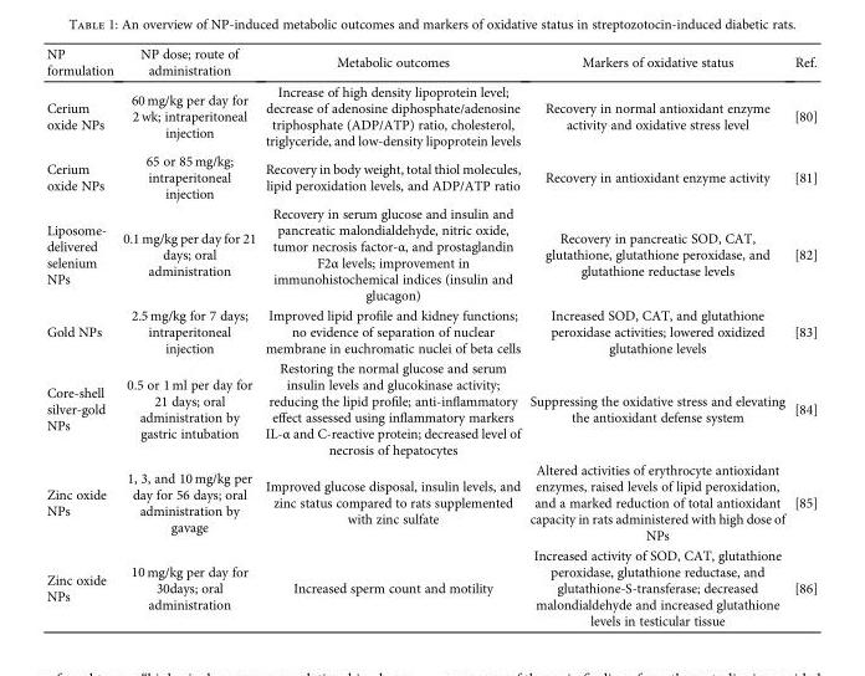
<table><thead><tr><td>NP formulation</td><td>NP dose; route of administration</td><td>Metabolic outcomes</td><td>Markers of oxidative status</td><td>Ref.</td></tr></thead><tbody><tr><td>Cerium oxide NPs</td><td>60 mg/kg per day for 2 wk; intraperitoneal injection</td><td>Increase of high density lipoprotein level; decrease of adenosine diphosphate/adenosine triphosphate (ADP/ATP) ratio, cholesterol, triglyceride, and low-density lipoprotein levels</td><td>Recovery in normal antioxidant enzyme activity and oxidative stress level</td><td>[80]</td></tr><tr><td>Cerium oxide NPs</td><td>65 or 85 mg/kg; intraperitoneal injection</td><td>Recovery in body weight, total thiol molecules, lipid peroxidation levels, and ADP/ATP ratio</td><td>Recovery in antioxidant enzyme activity</td><td>[81]</td></tr><tr><td>Liposome- delivered selenium NPs</td><td>0.1 mg/kg per day for 21 days; oral administration</td><td>Recovery in serum glucose and insulin and pancreatic malondialdehyde, nitric oxide, tumor necrosis factor-α, and prostaglandin F2α levels; improvement in immunohistochemical indices (insulin and glucagon)</td><td>Recovery in pancreatic SOD, CAT, glutathione, glutathione peroxidase, and glutathione reductase levels</td><td>[82]</td></tr><tr><td>Gold NPs</td><td>2.5 mg/kg for 7 days; intraperitoneal injection</td><td>Improved lipid profile and kidney functions; no evidence of separation of nuclear membrane in euchromatic nuclei of beta cells</td><td>Increased SOD, CAT, and glutathione peroxidase activities; lowered oxidized glutathione levels</td><td>[83]</td></tr><tr><td>Core-shell silver-gold NPs</td><td>0.5 or 1 ml per day for 21 days; oral administration by gastric intubation</td><td>Restoring the normal glucose and serum insulin levels and glucokinase activity; reducing the lipid profile; anti-inflammatory effect assessed using inflammatory markers IL-α and C-reactive protein; decreased level of necrosis of hepatocytes</td><td>Suppressing the oxidative stress and elevating the antioxidant defense system</td><td>[84]</td></tr><tr><td>Zinc oxide NPs</td><td>1, 3, and 10 mg/kg per day for 56 days; oral administration by gavage</td><td>Improved glucose disposal, insulin levels, and zinc status compared to rats supplemented with zinc sulfate</td><td>Altered activities of erythrocyte antioxidant enzymes, raised levels of lipid peroxidation, and a marked reduction of total antioxidant capacity in rats administered with high dose of NPs</td><td>[85]</td></tr><tr><td>Zinc oxide NPs</td><td>10 mg/kg per day for 30days; oral administration</td><td>Increased sperm count and motility</td><td>Increased activity of SOD, CAT, glutathione peroxidase, glutathione reductase, and glutathione-S-transferase; decreased malondialdehyde and increased glutathione levels in testicular tissue</td><td>[86]</td></tr></tbody></table>